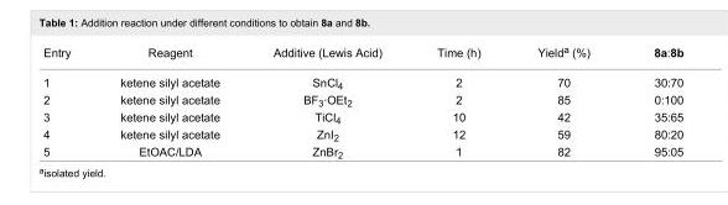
<table><tbody><tr><td>Entry</td><td>Reagent</td><td>Additive (Lewis Acid)</td><td>Time (h)</td><td>Yield<sup>a</sup> (%)</td><td>8a:8b</td></tr><tr><td>1</td><td>ketene silyl acetate</td><td>SnCl<sub>4</sub></td><td>2</td><td>70</td><td>30:70</td></tr><tr><td>2</td><td>ketene silyl acetate</td><td>BF<sub>3</sub>·OEt<sub>2</sub></td><td>2</td><td>85</td><td>0:100</td></tr><tr><td>3</td><td>ketene silyl acetate</td><td>TiCl<sub>4</sub></td><td>10</td><td>42</td><td>35:65</td></tr><tr><td>4</td><td>ketene silyl acetate</td><td>ZnI<sub>2</sub></td><td>12</td><td>59</td><td>80:20</td></tr><tr><td>5</td><td>EtOAC/LDA</td><td>ZnBr<sub>2</sub></td><td>1</td><td>82</td><td>95:05</td></tr></tbody></table>